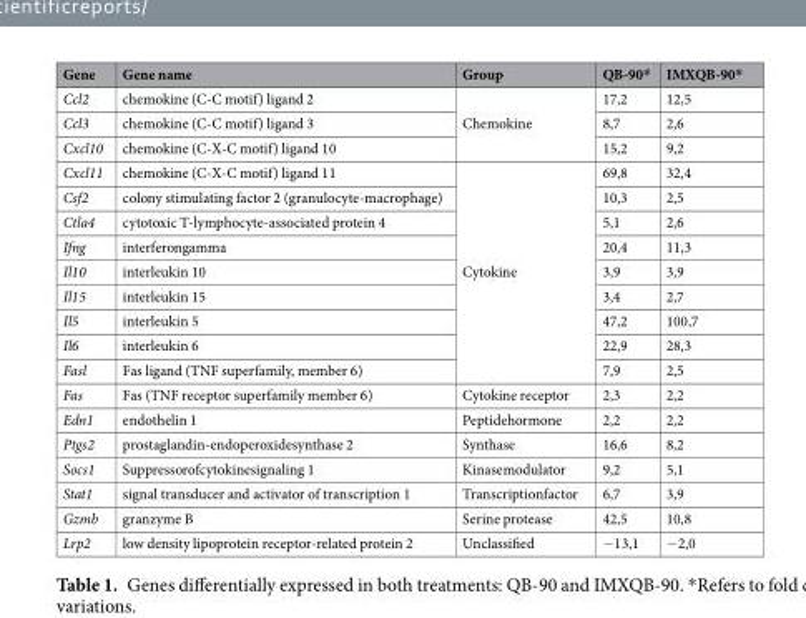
<table><thead><tr><td>Gene</td><td>Gene name</td><td>Group</td><td>QB-90*</td><td>IMXQB-90*</td></tr></thead><tbody><tr><td>Ccl2</td><td>chemokine (C-C motif) ligand 2</td><td rowspan="3">Chemokine</td><td>17,2</td><td>12,5</td></tr><tr><td>Ccl3</td><td>chemokine (C-C motif) ligand 3</td><td>8,7</td><td>2,6</td></tr><tr><td>Cxcl10</td><td>chemokine (C-X-C motif) ligand 10</td><td>15,2</td><td>9,2</td></tr><tr><td>Cxcl11</td><td>chemokine (C-X-C motif) ligand 11</td><td rowspan="9">Cytokine</td><td>69,8</td><td>32,4</td></tr><tr><td>Csf2</td><td>colony stimulating factor 2 (granulocyte-macrophage)</td><td>10,3</td><td>2,5</td></tr><tr><td>Ctla4</td><td>cytotoxic T-lymphocyte-associated protein 4</td><td>5,1</td><td>2,6</td></tr><tr><td>Ifng</td><td>interferongamma</td><td>20,4</td><td>11,3</td></tr><tr><td>Il10</td><td>interleukin 10</td><td>3,9</td><td>3,9</td></tr><tr><td>Il15</td><td>interleukin 15</td><td>3,4</td><td>2,7</td></tr><tr><td>Il5</td><td>interleukin 5</td><td>47,2</td><td>100,7</td></tr><tr><td>Il6</td><td>interleukin 6</td><td>22,9</td><td>28,3</td></tr><tr><td>Fasl</td><td>Fas ligand (TNF superfamily, member 6)</td><td>7,9</td><td>2,5</td></tr><tr><td>Fas</td><td>Fas (TNF receptor superfamily member 6)</td><td>Cytokine receptor</td><td>2,3</td><td>2,2</td></tr><tr><td>Edn1</td><td>endothelin 1</td><td>Peptidehormone</td><td>2,2</td><td>2,2</td></tr><tr><td>Ptgs2</td><td>prostaglandin-endoperoxidesynthase 2</td><td>Synthase</td><td>16,6</td><td>8,2</td></tr><tr><td>Socs1</td><td>Suppressorofcytokinesignaling 1</td><td>Kinasemodulator</td><td>9,2</td><td>5,1</td></tr><tr><td>Stat1</td><td>signal transducer and activator of transcription 1</td><td>Transcriptionfactor</td><td>6,7</td><td>3,9</td></tr><tr><td>Gzmb</td><td>granzyme B</td><td>Serine protease</td><td>42,5</td><td>10,8</td></tr><tr><td>Lrp2</td><td>low density lipoprotein receptor-related protein 2</td><td>Unclassified</td><td>−13,1</td><td>−2,0</td></tr></tbody></table>